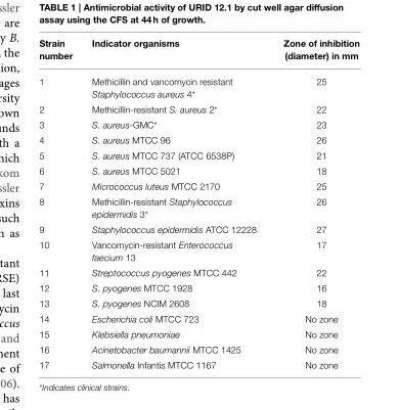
<table><thead><tr><td>Strain number</td><td>Indicator organisms</td><td>Zone of inhibition (diameter) in mm</td></tr></thead><tbody><tr><td>1</td><td>Methicillin and vancomycin resistant Staphylococcus aureus 4*</td><td>25</td></tr><tr><td>2</td><td>Methicillin-resistant S. aureus 2*</td><td>22</td></tr><tr><td>3</td><td>S. aureus-GMC*</td><td>23</td></tr><tr><td>4</td><td>S. aureus MTCC 96</td><td>26</td></tr><tr><td>5</td><td>S. aureus MTCC 737 (ATCC 6538P)</td><td>21</td></tr><tr><td>6</td><td>S. aureus MTCC 5021</td><td>18</td></tr><tr><td>7</td><td>Micrococcus luteus MTCC 2170</td><td>25</td></tr><tr><td>8</td><td>Methicillin-resistant Staphylococcus epidermidis 3*</td><td>26</td></tr><tr><td>9</td><td>Staphylococcus epidermidis ATCC 12228</td><td>27</td></tr><tr><td>10</td><td>Vancomycin-resistant Enterococcus faecium 13</td><td>17</td></tr><tr><td>11</td><td>Streptococcus pyogenes MTCC 442</td><td>22</td></tr><tr><td>12</td><td>S. pyogenes MTCC 1928</td><td>16</td></tr><tr><td>13</td><td>S. pyogenes NCIM 2608</td><td>18</td></tr><tr><td>14</td><td>Escherichia coli MTCC 723</td><td>No zone</td></tr><tr><td>15</td><td>Klebsiella pneumoniae</td><td>No zone</td></tr><tr><td>16</td><td>Acinetobacter baumannii MTCC 1425</td><td>No zone</td></tr><tr><td>17</td><td>Salmonella Infantis MTCC 1167</td><td>No zone</td></tr></tbody></table>